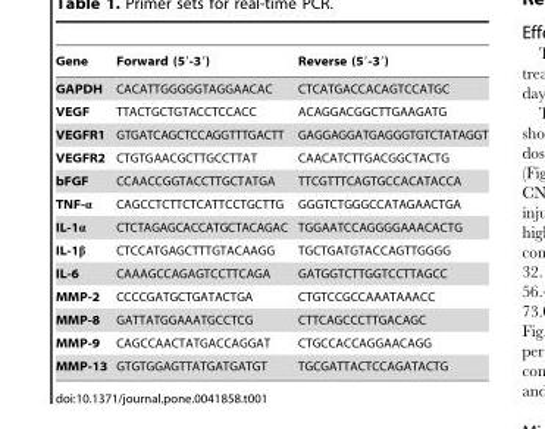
<table><thead><tr><td>Gene</td><td>Forward (5′-3′)</td><td>Reverse (5′-3′)</td></tr></thead><tbody><tr><td>GAPDH</td><td>CACATTGGGGGTAGGAACAC</td><td>CTCATGACCACAGTCCATGC</td></tr><tr><td>VEGF</td><td>TTACTGCTGTACCTCCACC</td><td>ACAGGACGGCTTGAAGATG</td></tr><tr><td>VEGFR1</td><td>GTGATCAGCTCCAGGTTTGACTT</td><td>GAGGAGGATGAGGGTGTCTATAGGT</td></tr><tr><td>VEGFR2</td><td>CTGTGAACGCTTGCCTTAT</td><td>CAACATCTTGACGGCTACTG</td></tr><tr><td>bFGF</td><td>CCAACCGGTACCTTGCTATGA</td><td>TTCGTTTCAGTGCCACATACCA</td></tr><tr><td>TNF-α</td><td>CAGCCTCTTCTCATTCCTGCTTG</td><td>GGGTCTGGGCCATAGAACTGA</td></tr><tr><td>IL-1α</td><td>CTCTAGAGCACCATGCTACAGAC</td><td>TGGAATCCAGGGGAAACACTG</td></tr><tr><td>IL-1β</td><td>CTCCATGAGCTTTGTACAAGG</td><td>TGCTGATGTACCAGTTGGGG</td></tr><tr><td>IL-6</td><td>CAAAGCCAGAGTCCTTCAGA</td><td>GATGGTCTTGGTCCTTAGCC</td></tr><tr><td>MMP-2</td><td>CCCCGATGCTGATACTGA</td><td>CTGTCCGCCAAATAAACC</td></tr><tr><td>MMP-8</td><td>GATTATGGAAATGCCTCG</td><td>CTTCAGCCCTTGACAGC</td></tr><tr><td>MMP-9</td><td>CAGCCAACTATGACCAGGAT</td><td>CTGCCACCAGGAACAGG</td></tr><tr><td>MMP-13</td><td>GTGTGGAGTTATGATGATGT</td><td>TGCGATTACTCCAGATACTG</td></tr></tbody></table>